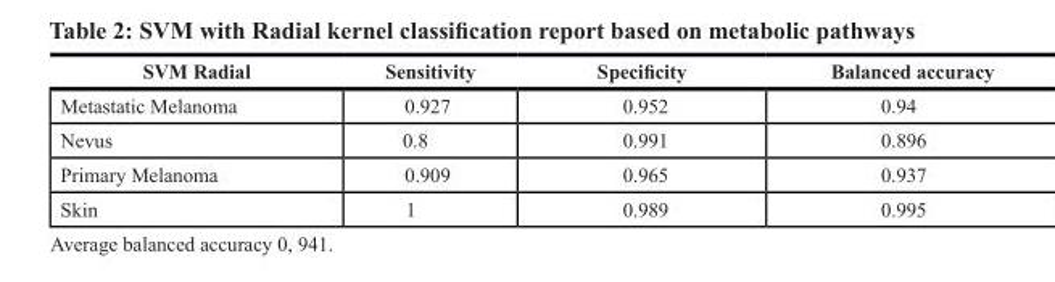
<table><thead><tr><td>SVM Radial</td><td>Sensitivity</td><td>Specificity</td><td>Balanced accuracy</td></tr></thead><tbody><tr><td>Metastatic Melanoma</td><td>0.927</td><td>0.952</td><td>0.94</td></tr><tr><td>Nevus</td><td>0.8</td><td>0.991</td><td>0.896</td></tr><tr><td>Primary Melanoma</td><td>0.909</td><td>0.965</td><td>0.937</td></tr><tr><td>Skin</td><td>1</td><td>0.989</td><td>0.995</td></tr></tbody></table>